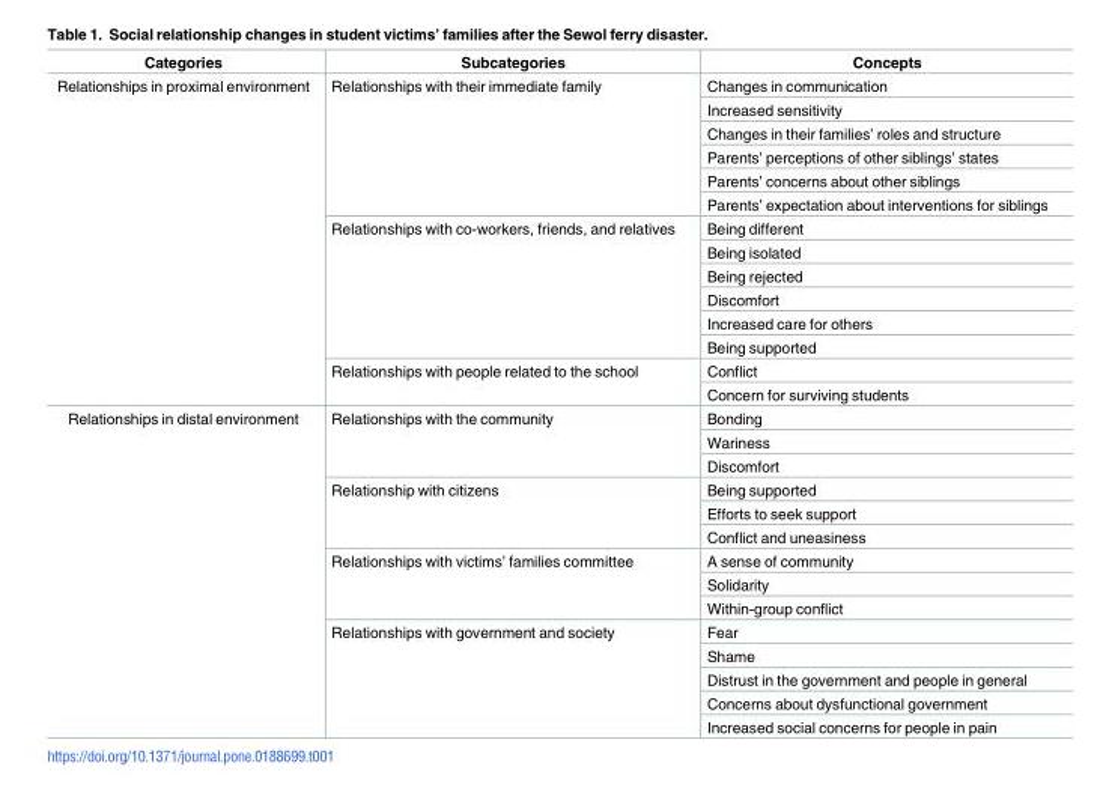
<table><thead><tr><td>Categories</td><td>Subcategories</td><td>Concepts</td></tr></thead><tbody><tr><td rowspan="14">Relationships in proximal environment</td><td rowspan="6">Relationships with their immediate family</td><td>Changes in communication</td></tr><tr><td>Increased sensitivity</td></tr><tr><td>Changes in their families’ roles and structure</td></tr><tr><td>Parents’ perceptions of other siblings’ states</td></tr><tr><td>Parents’ concerns about other siblings</td></tr><tr><td>Parents’ expectation about interventions for siblings</td></tr><tr><td rowspan="6">Relationships with co-workers, friends, and relatives</td><td>Being different</td></tr><tr><td>Being isolated</td></tr><tr><td>Being rejected</td></tr><tr><td>Discomfort</td></tr><tr><td>Increased care for others</td></tr><tr><td>Being supported</td></tr><tr><td rowspan="2">Relationships with people related to the school</td><td>Conflict</td></tr><tr><td>Concern for surviving students</td></tr><tr><td rowspan="14">Relationships in distal environment</td><td rowspan="3">Relationships with the community</td><td>Bonding</td></tr><tr><td>Wariness</td></tr><tr><td>Discomfort</td></tr><tr><td rowspan="3">Relationship with citizens</td><td>Being supported</td></tr><tr><td>Efforts to seek support</td></tr><tr><td>Conflict and uneasiness</td></tr><tr><td rowspan="3">Relationships with victims’ families committee</td><td>A sense of community</td></tr><tr><td>Solidarity</td></tr><tr><td>Within-group conflict</td></tr><tr><td rowspan="5">Relationships with government and society</td><td>Fear</td></tr><tr><td>Shame</td></tr><tr><td>Distrust in the government and people in general</td></tr><tr><td>Concerns about dysfunctional government</td></tr><tr><td>Increased social concerns for people in pain</td></tr></tbody></table>